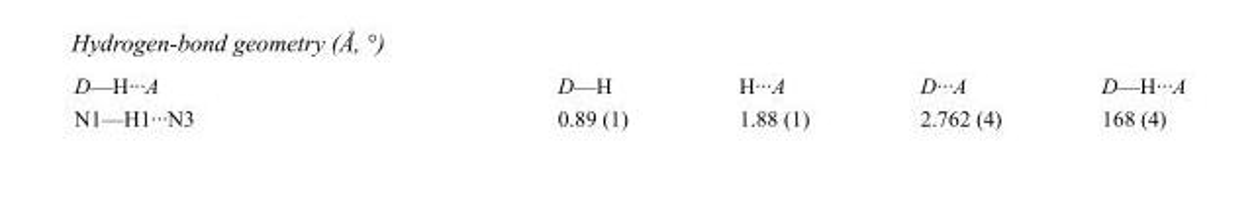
<table><tbody><tr><td>D—H···A</td><td>D—H</td><td>H···A</td><td>D···A</td><td>D—H···A</td></tr><tr><td>N1—H1···N3</td><td>0.89 (1)</td><td>1.88 (1)</td><td>2.762 (4)</td><td>168 (4)</td></tr></tbody></table>